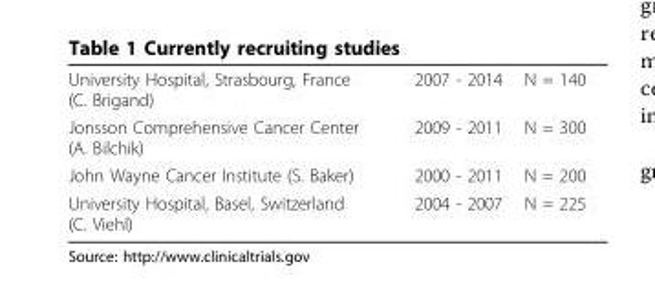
<table><tbody><tr><td>University Hospital, Strasbourg, France (C. Brigand)</td><td>2007 - 2014</td><td>N = 140</td></tr><tr><td>Jonsson Comprehensive Cancer Center (A. Bilchik)</td><td>2009 - 2011</td><td>N = 300</td></tr><tr><td>John Wayne Cancer Institute (S. Baker)</td><td>2000 - 2011</td><td>N = 200</td></tr><tr><td>University Hospital, Basel, Switzerland (C. Viehl)</td><td>2004 - 2007</td><td>N = 225</td></tr></tbody></table>